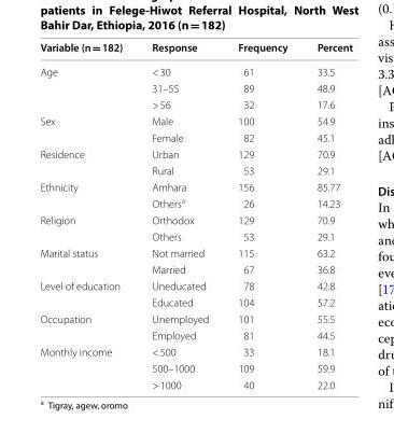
<table><thead><tr><td>Variable (n = 182)</td><td>Response</td><td>Frequency</td><td>Percent</td></tr></thead><tbody><tr><td rowspan="3">Age</td><td>&lt; 30</td><td>61</td><td>33.5</td></tr><tr><td>31–55</td><td>89</td><td>48.9</td></tr><tr><td>&gt; 56</td><td>32</td><td>17.6</td></tr><tr><td rowspan="2">Sex</td><td>Male</td><td>100</td><td>54.9</td></tr><tr><td>Female</td><td>82</td><td>45.1</td></tr><tr><td rowspan="2">Residence</td><td>Urban</td><td>129</td><td>70.9</td></tr><tr><td>Rural</td><td>53</td><td>29.1</td></tr><tr><td rowspan="2">Ethnicity</td><td>Amhara</td><td>156</td><td>85.77</td></tr><tr><td>Others<sup>a</sup></td><td>26</td><td>14.23</td></tr><tr><td rowspan="2">Religion</td><td>Orthodox</td><td>129</td><td>70.9</td></tr><tr><td>Others</td><td>53</td><td>29.1</td></tr><tr><td rowspan="2">Marital status</td><td>Not married</td><td>115</td><td>63.2</td></tr><tr><td>Married</td><td>67</td><td>36.8</td></tr><tr><td rowspan="2">Level of education</td><td>Uneducated</td><td>78</td><td>42.8</td></tr><tr><td>Educated</td><td>104</td><td>57.2</td></tr><tr><td rowspan="2">Occupation</td><td>Unemployed</td><td>101</td><td>55.5</td></tr><tr><td>Employed</td><td>81</td><td>44.5</td></tr><tr><td rowspan="3">Monthly income</td><td>&lt; 500</td><td>33</td><td>18.1</td></tr><tr><td>500–1000</td><td>109</td><td>59.9</td></tr><tr><td>&gt; 1000</td><td>40</td><td>22.0</td></tr></tbody></table>